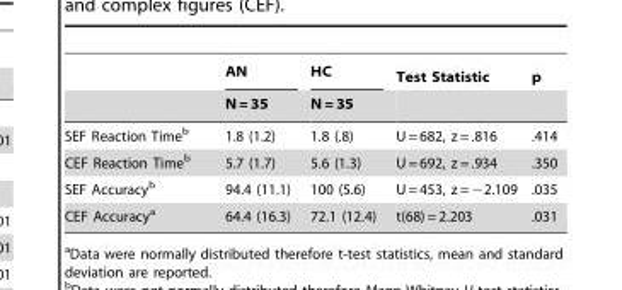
<table><thead><tr><td rowspan="2"></td><td rowspan="2">AN N = 35</td><td rowspan="2">HC N = 35</td><td rowspan="2">Test Statistic</td><td rowspan="2">p</td></tr><tr></tr></thead><tbody><tr><td>SEF Reaction Time<sup>b</sup></td><td>1.8 (1.2)</td><td>1.8 (.8)</td><td>U = 682, z = .816</td><td>.414</td></tr><tr><td>CEF Reaction Time<sup>b</sup></td><td>5.7 (1.7)</td><td>5.6 (1.3)</td><td>U = 692, z = .934</td><td>.350</td></tr><tr><td>SEF Accuracy<sup>b</sup></td><td>94.4 (11.1)</td><td>100 (5.6)</td><td>U = 453, z = −2.109</td><td>.035</td></tr><tr><td>CEF Accuracy<sup>a</sup></td><td>64.4 (16.3)</td><td>72.1 (12.4)</td><td>t(68) = 2.203</td><td>.031</td></tr></tbody></table>